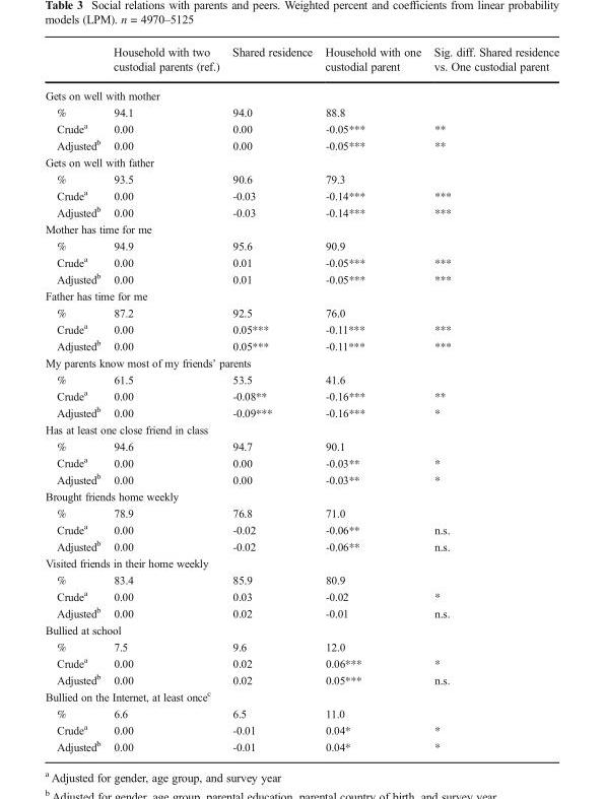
<table><thead><tr><td></td><td>Household with two custodial parents (ref.)</td><td>Shared residence</td><td>Household with one custodial parent</td><td>Sig. diff. Shared residence vs. One custodial parent</td></tr></thead><tbody><tr><td colspan="5">Gets on well with mother</td></tr><tr><td>%</td><td>94.1</td><td>94.0</td><td>88.8</td><td></td></tr><tr><td>Crude<sup>a</sup></td><td>0.00</td><td>0.00</td><td>-0.05***</td><td>**</td></tr><tr><td>Adjusted<sup>b</sup></td><td>0.00</td><td>0.00</td><td>-0.05***</td><td>**</td></tr><tr><td colspan="5">Gets on well with father</td></tr><tr><td>%</td><td>93.5</td><td>90.6</td><td>79.3</td><td></td></tr><tr><td>Crude<sup>a</sup></td><td>0.00</td><td>-0.03</td><td>-0.14***</td><td>***</td></tr><tr><td>Adjusted<sup>b</sup></td><td>0.00</td><td>-0.03</td><td>-0.14***</td><td>***</td></tr><tr><td colspan="5">Mother has time for me</td></tr><tr><td>%</td><td>94.9</td><td>95.6</td><td>90.9</td><td></td></tr><tr><td>Crude<sup>a</sup></td><td>0.00</td><td>0.01</td><td>-0.05***</td><td>***</td></tr><tr><td>Adjusted<sup>b</sup></td><td>0.00</td><td>0.01</td><td>-0.05***</td><td>***</td></tr><tr><td colspan="5">Father has time for me</td></tr><tr><td>%</td><td>87.2</td><td>92.5</td><td>76.0</td><td></td></tr><tr><td>Crude<sup>a</sup></td><td>0.00</td><td>0.05***</td><td>-0.11***</td><td>***</td></tr><tr><td>Adjusted<sup>b</sup></td><td>0.00</td><td>0.05***</td><td>-0.11***</td><td>***</td></tr><tr><td colspan="5">My parents know most of my friends’ parents</td></tr><tr><td>%</td><td>61.5</td><td>53.5</td><td>41.6</td><td></td></tr><tr><td>Crude<sup>a</sup></td><td>0.00</td><td>-0.08**</td><td>-0.16***</td><td>**</td></tr><tr><td>Adjusted<sup>b</sup></td><td>0.00</td><td>-0.09***</td><td>-0.16***</td><td>*</td></tr><tr><td colspan="5">Has at least one close friend in class</td></tr><tr><td>%</td><td>94.6</td><td>94.7</td><td>90.1</td><td></td></tr><tr><td>Crude<sup>a</sup></td><td>0.00</td><td>0.00</td><td>-0.03**</td><td>*</td></tr><tr><td>Adjusted<sup>b</sup></td><td>0.00</td><td>0.00</td><td>-0.03**</td><td>*</td></tr><tr><td colspan="5">Brought friends home weekly</td></tr><tr><td>%</td><td>78.9</td><td>76.8</td><td>71.0</td><td></td></tr><tr><td>Crude<sup>a</sup></td><td>0.00</td><td>-0.02</td><td>-0.06**</td><td>n.s.</td></tr><tr><td>Adjusted<sup>b</sup></td><td>0.00</td><td>-0.02</td><td>-0.06**</td><td>n.s.</td></tr><tr><td colspan="5">Visited friends in their home weekly</td></tr><tr><td>%</td><td>83.4</td><td>85.9</td><td>80.9</td><td></td></tr><tr><td>Crude<sup>a</sup></td><td>0.00</td><td>0.03</td><td>-0.02</td><td>*</td></tr><tr><td>Adjusted<sup>b</sup></td><td>0.00</td><td>0.02</td><td>-0.01</td><td>n.s.</td></tr><tr><td colspan="5">Bullied at school</td></tr><tr><td>%</td><td>7.5</td><td>9.6</td><td>12.0</td><td></td></tr><tr><td>Crude<sup>a</sup></td><td>0.00</td><td>0.02</td><td>0.06***</td><td>*</td></tr><tr><td>Adjusted<sup>b</sup></td><td>0.00</td><td>0.02</td><td>0.05***</td><td>n.s.</td></tr><tr><td colspan="5">Bullied on the Internet, at least once<sup>c</sup></td></tr><tr><td>%</td><td>6.6</td><td>6.5</td><td>11.0</td><td></td></tr><tr><td>Crude<sup>a</sup></td><td>0.00</td><td>-0.01</td><td>0.04*</td><td>*</td></tr><tr><td>Adjusted<sup>b</sup></td><td>0.00</td><td>-0.01</td><td>0.04*</td><td>*</td></tr></tbody></table>